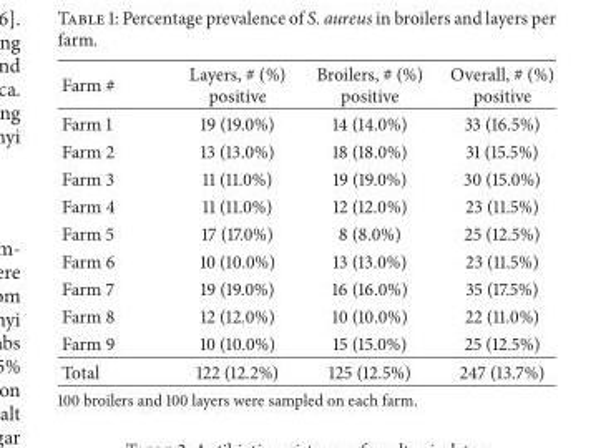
<table><thead><tr><td>Farm #</td><td>Layers, # (%) positive</td><td>Broilers, # (%) positive</td><td>Overall, # (%) positive</td></tr></thead><tbody><tr><td>Farm 1</td><td>19 (19.0%)</td><td>14 (14.0%)</td><td>33 (16.5%)</td></tr><tr><td>Farm 2</td><td>13 (13.0%)</td><td>18 (18.0%)</td><td>31 (15.5%)</td></tr><tr><td>Farm 3</td><td>11 (11.0%)</td><td>19 (19.0%)</td><td>30 (15.0%)</td></tr><tr><td>Farm 4</td><td>11 (11.0%)</td><td>12 (12.0%)</td><td>23 (11.5%)</td></tr><tr><td>Farm 5</td><td>17 (17.0%)</td><td>8 (8.0%)</td><td>25 (12.5%)</td></tr><tr><td>Farm 6</td><td>10 (10.0%)</td><td>13 (13.0%)</td><td>23 (11.5%)</td></tr><tr><td>Farm 7</td><td>19 (19.0%)</td><td>16 (16.0%)</td><td>35 (17.5%)</td></tr><tr><td>Farm 8</td><td>12 (12.0%)</td><td>10 (10.0%)</td><td>22 (11.0%)</td></tr><tr><td>Farm 9</td><td>10 (10.0%)</td><td>15 (15.0%)</td><td>25 (12.5%)</td></tr><tr><td>Total</td><td>122 (12.2%)</td><td>125 (12.5%)</td><td>247 (13.7%)</td></tr></tbody></table>